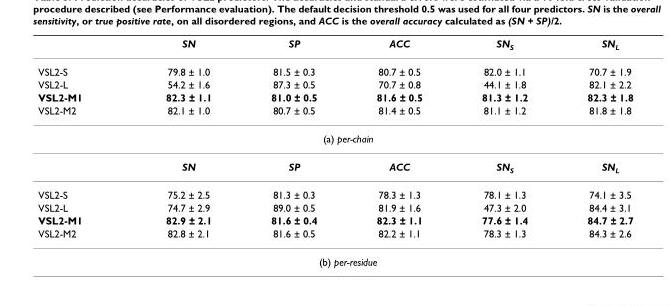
<table><thead><tr><td></td><td>SN</td><td>SP</td><td>ACC</td><td>SNS</td><td>SNL</td></tr></thead><tbody><tr><td>VSL2-S</td><td>79.8 ± 1.0</td><td>81.5 ± 0.3</td><td>80.7 ± 0.5</td><td>82.0 ± 1.1</td><td>70.7 ± 1.9</td></tr><tr><td>VSL2-L</td><td>54.2 ± 1.6</td><td>87.3 ± 0.5</td><td>70.7 ± 0.8</td><td>44.1 ± 1.8</td><td>82.1 ± 2.2</td></tr><tr><td>VSL2-M1</td><td>82.3 ± 1.1</td><td>81.0 ± 0.5</td><td>81.6 ± 0.5</td><td>81.3 ± 1.2</td><td>82.3 ± 1.8</td></tr><tr><td>VSL2-M2</td><td>82.1 ± 1.0</td><td>80.7 ± 0.5</td><td>81.4 ± 0.5</td><td>81.1 ± 1.2</td><td>81.8 ± 1.8</td></tr><tr><td colspan="6">(a) per-chain</td></tr><tr><td></td><td>SN</td><td>SP</td><td>ACC</td><td>SNS</td><td>SNL</td></tr><tr><td>VSL2-S</td><td>75.2 ± 2.5</td><td>81.3 ± 0.3</td><td>78.3 ± 1.3</td><td>78.1 ± 1.3</td><td>74.1 ± 3.5</td></tr><tr><td>VSL2-L</td><td>74.7 ± 2.9</td><td>89.0 ± 0.5</td><td>81.9 ± 1.6</td><td>47.3 ± 2.0</td><td>84.4 ± 3.1</td></tr><tr><td>VSL2-M1</td><td>82.9 ± 2.1</td><td>81.6 ± 0.4</td><td>82.3 ± 1.1</td><td>77.6 ± 1.4</td><td>84.7 ± 2.7</td></tr><tr><td>VSL2-M2</td><td>82.8 ± 2.1</td><td>81.6 ± 0.5</td><td>82.2 ± 1.1</td><td>78.3 ± 1.3</td><td>84.3 ± 2.6</td></tr><tr><td colspan="6">(b) per-residue</td></tr></tbody></table>